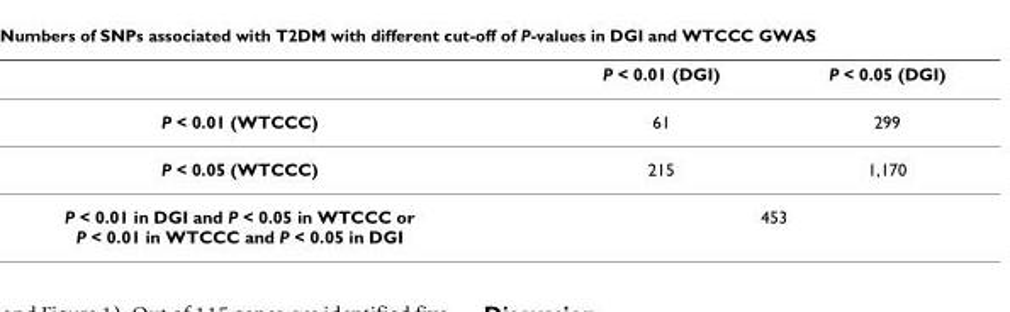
<table><thead><tr><td></td><td>P &lt; 0.01 (DGI)</td><td>P &lt; 0.05 (DGI)</td></tr></thead><tbody><tr><td>P &lt; 0.01 (WTCCC)</td><td>61</td><td>299</td></tr><tr><td>P &lt; 0.05 (WTCCC)</td><td>215</td><td>1,170</td></tr><tr><td>P &lt; 0.01 in DGI and P &lt; 0.05 in WTCCC or P &lt; 0.01 in WTCCC and P &lt; 0.05 in DGI</td><td colspan="2">453</td></tr></tbody></table>